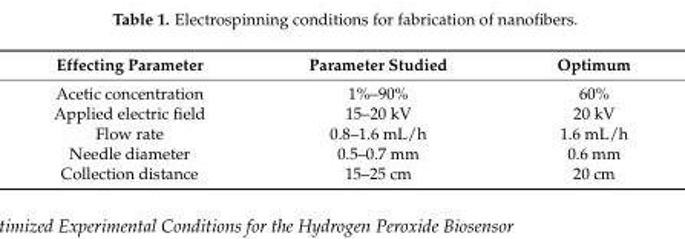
<table><thead><tr><td>Effecting Parameter</td><td>Parameter Studied</td><td>Optimum</td></tr></thead><tbody><tr><td>Acetic concentration</td><td>1%–90%</td><td>60%</td></tr><tr><td>Applied electric field</td><td>15–20 kV</td><td>20 kV</td></tr><tr><td>Flow rate</td><td>0.8–1.6 mL/h</td><td>1.6 mL/h</td></tr><tr><td>Needle diameter</td><td>0.5–0.7 mm</td><td>0.6 mm</td></tr><tr><td>Collection distance</td><td>15–25 cm</td><td>20 cm</td></tr></tbody></table>